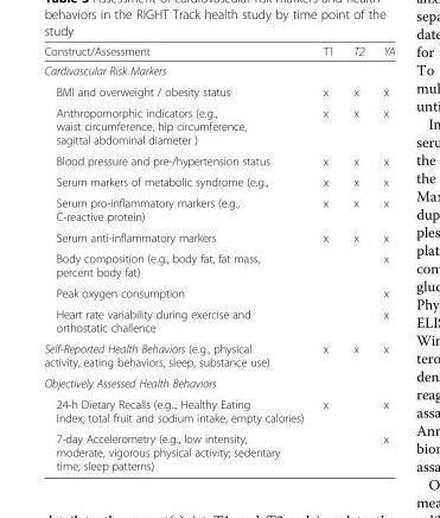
<table><thead><tr><td>Construct/Assessment</td><td>T1</td><td>T2</td><td>YA</td></tr></thead><tbody><tr><td colspan="4">Cardivascular Risk Markers</td></tr><tr><td>BMI and overweight / obesity status</td><td>x</td><td>x</td><td>x</td></tr><tr><td>Anthropomorphic indicators (e.g., waist circumference, hip circumference, sagittal abdominal diameter )</td><td>x</td><td>x</td><td>x</td></tr><tr><td>Blood pressure and pre-/hypertension status</td><td>x</td><td>x</td><td>x</td></tr><tr><td>Serum markers of metabolic syndrome (e.g.,</td><td>x</td><td>x</td><td>x</td></tr><tr><td>Serum pro-inflammatory markers (e.g., C-reactive protein)</td><td>x</td><td>x</td><td>x</td></tr><tr><td>Serum anti-inflammatory markers</td><td>x</td><td>x</td><td>x</td></tr><tr><td>Body composition (e.g., body fat, fat mass, percent body fat)</td><td></td><td></td><td>x</td></tr><tr><td>Peak oxygen consumption</td><td></td><td></td><td>x</td></tr><tr><td>Heart rate variability during exercise and orthostatic challence</td><td></td><td></td><td>x</td></tr><tr><td>Self-Reported Health Behaviors (e.g., physical activity, eating behaviors, sleep, substance use)</td><td>x</td><td>x</td><td>x</td></tr><tr><td colspan="4">Objectively Assessed Health Behaviors</td></tr><tr><td>24-h Dietary Recalls (e.g.., Healthy Eating Index, total fruit and sodium intake, empty calories)</td><td>x</td><td></td><td>x</td></tr><tr><td>7-day Accelerometry (e.g., low intensity, moderate, vigorous physical activity; sedentary time; sleep patterns)</td><td></td><td></td><td>x</td></tr></tbody></table>